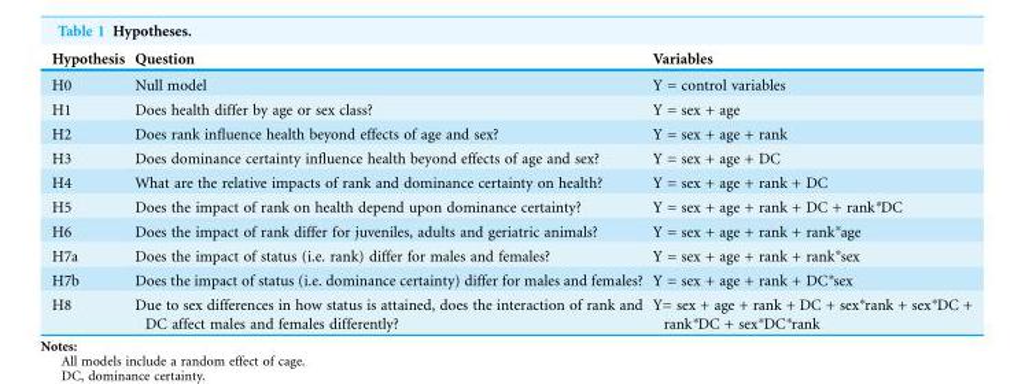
<table><thead><tr><td>Hypothesis</td><td>Question</td><td>Variables</td></tr></thead><tbody><tr><td>H0</td><td>Null model</td><td>Y = control variables</td></tr><tr><td>H1</td><td>Does health differ by age or sex class?</td><td>Y = sex + age</td></tr><tr><td>H2</td><td>Does rank influence health beyond effects of age and sex?</td><td>Y = sex + age + rank</td></tr><tr><td>H3</td><td>Does dominance certainty influence health beyond effects of age and sex?</td><td>Y = sex + age + DC</td></tr><tr><td>H4</td><td>What are the relative impacts of rank and dominance certainty on health?</td><td>Y = sex + age + rank + DC</td></tr><tr><td>H5</td><td>Does the impact of rank on health depend upon dominance certainty?</td><td>Y = sex + age + rank + DC + rank*DC</td></tr><tr><td>H6</td><td>Does the impact of rank differ for juveniles, adults and geriatric animals?</td><td>Y = sex + age + rank + rank*age</td></tr><tr><td>H7a</td><td>Does the impact of status (i.e. rank) differ for males and females?</td><td>Y = sex + age + rank + rank*sex</td></tr><tr><td>H7b</td><td>Does the impact of status (i.e. dominance certainty) differ for males and females?</td><td>Y = sex + age + rank + DC*sex</td></tr><tr><td>H8</td><td>Due to sex differences in how status is attained, does the interaction of rank and DC affect males and females differently?</td><td>Y= sex + age + rank + DC + sex*rank + sex*DC + rank*DC + sex*DC*rank</td></tr></tbody></table>